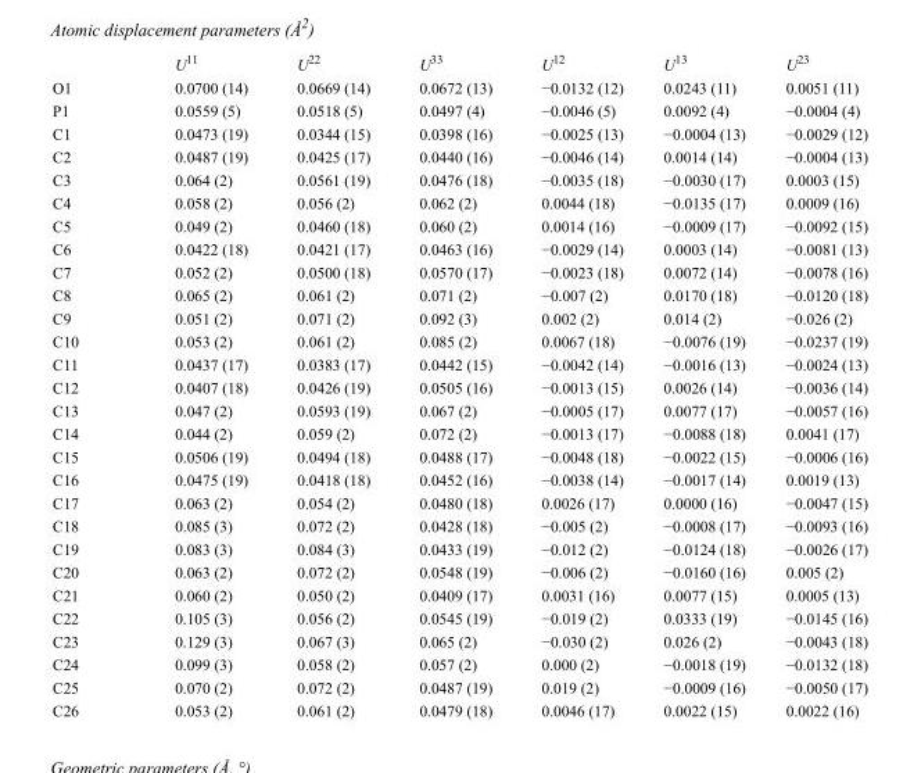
<table><thead><tr><td></td><td>U<sup>11</sup></td><td>U<sup>22</sup></td><td>U<sup>33</sup></td><td>U<sup>12</sup></td><td>U<sup>13</sup></td><td>U<sup>23</sup></td></tr></thead><tbody><tr><td>O1</td><td>0.0700 (14)</td><td>0.0669 (14)</td><td>0.0672 (13)</td><td>−0.0132 (12)</td><td>0.0243 (11)</td><td>0.0051 (11)</td></tr><tr><td>P1</td><td>0.0559 (5)</td><td>0.0518 (5)</td><td>0.0497 (4)</td><td>−0.0046 (5)</td><td>0.0092 (4)</td><td>−0.0004 (4)</td></tr><tr><td>C1</td><td>0.0473 (19)</td><td>0.0344 (15)</td><td>0.0398 (16)</td><td>−0.0025 (13)</td><td>−0.0004 (13)</td><td>−0.0029 (12)</td></tr><tr><td>C2</td><td>0.0487 (19)</td><td>0.0425 (17)</td><td>0.0440 (16)</td><td>−0.0046 (14)</td><td>0.0014 (14)</td><td>−0.0004 (13)</td></tr><tr><td>C3</td><td>0.064 (2)</td><td>0.0561 (19)</td><td>0.0476 (18)</td><td>−0.0035 (18)</td><td>−0.0030 (17)</td><td>0.0003 (15)</td></tr><tr><td>C4</td><td>0.058 (2)</td><td>0.056 (2)</td><td>0.062 (2)</td><td>0.0044 (18)</td><td>−0.0135 (17)</td><td>0.0009 (16)</td></tr><tr><td>C5</td><td>0.049 (2)</td><td>0.0460 (18)</td><td>0.060 (2)</td><td>0.0014 (16)</td><td>−0.0009 (17)</td><td>−0.0092 (15)</td></tr><tr><td>C6</td><td>0.0422 (18)</td><td>0.0421 (17)</td><td>0.0463 (16)</td><td>−0.0029 (14)</td><td>0.0003 (14)</td><td>−0.0081 (13)</td></tr><tr><td>C7</td><td>0.052 (2)</td><td>0.0500 (18)</td><td>0.0570 (17)</td><td>−0.0023 (18)</td><td>0.0072 (14)</td><td>−0.0078 (16)</td></tr><tr><td>C8</td><td>0.065 (2)</td><td>0.061 (2)</td><td>0.071 (2)</td><td>−0.007 (2)</td><td>0.0170 (18)</td><td>−0.0120 (18)</td></tr><tr><td>C9</td><td>0.051 (2)</td><td>0.071 (2)</td><td>0.092 (3)</td><td>0.002 (2)</td><td>0.014 (2)</td><td>−0.026 (2)</td></tr><tr><td>C10</td><td>0.053 (2)</td><td>0.061 (2)</td><td>0.085 (2)</td><td>0.0067 (18)</td><td>−0.0076 (19)</td><td>−0.0237 (19)</td></tr><tr><td>C11</td><td>0.0437 (17)</td><td>0.0383 (17)</td><td>0.0442 (15)</td><td>−0.0042 (14)</td><td>−0.0016 (13)</td><td>−0.0024 (13)</td></tr><tr><td>C12</td><td>0.0407 (18)</td><td>0.0426 (19)</td><td>0.0505 (16)</td><td>−0.0013 (15)</td><td>0.0026 (14)</td><td>−0.0036 (14)</td></tr><tr><td>C13</td><td>0.047 (2)</td><td>0.0593 (19)</td><td>0.067 (2)</td><td>−0.0005 (17)</td><td>0.0077 (17)</td><td>−0.0057 (16)</td></tr><tr><td>C14</td><td>0.044 (2)</td><td>0.059 (2)</td><td>0.072 (2)</td><td>−0.0013 (17)</td><td>−0.0088 (18)</td><td>0.0041 (17)</td></tr><tr><td>C15</td><td>0.0506 (19)</td><td>0.0494 (18)</td><td>0.0488 (17)</td><td>−0.0048 (18)</td><td>−0.0022 (15)</td><td>−0.0006 (16)</td></tr><tr><td>C16</td><td>0.0475 (19)</td><td>0.0418 (18)</td><td>0.0452 (16)</td><td>−0.0038 (14)</td><td>−0.0017 (14)</td><td>0.0019 (13)</td></tr><tr><td>C17</td><td>0.063 (2)</td><td>0.054 (2)</td><td>0.0480 (18)</td><td>0.0026 (17)</td><td>0.0000 (16)</td><td>−0.0047 (15)</td></tr><tr><td>C18</td><td>0.085 (3)</td><td>0.072 (2)</td><td>0.0428 (18)</td><td>−0.005 (2)</td><td>−0.0008 (17)</td><td>−0.0093 (16)</td></tr><tr><td>C19</td><td>0.083 (3)</td><td>0.084 (3)</td><td>0.0433 (19)</td><td>−0.012 (2)</td><td>−0.0124 (18)</td><td>−0.0026 (17)</td></tr><tr><td>C20</td><td>0.063 (2)</td><td>0.072 (2)</td><td>0.0548 (19)</td><td>−0.006 (2)</td><td>−0.0160 (16)</td><td>0.005 (2)</td></tr><tr><td>C21</td><td>0.060 (2)</td><td>0.050 (2)</td><td>0.0409 (17)</td><td>0.0031 (16)</td><td>0.0077 (15)</td><td>0.0005 (13)</td></tr><tr><td>C22</td><td>0.105 (3)</td><td>0.056 (2)</td><td>0.0545 (19)</td><td>−0.019 (2)</td><td>0.0333 (19)</td><td>−0.0145 (16)</td></tr><tr><td>C23</td><td>0.129 (3)</td><td>0.067 (3)</td><td>0.065 (2)</td><td>−0.030 (2)</td><td>0.026 (2)</td><td>−0.0043 (18)</td></tr><tr><td>C24</td><td>0.099 (3)</td><td>0.058 (2)</td><td>0.057 (2)</td><td>0.000 (2)</td><td>−0.0018 (19)</td><td>−0.0132 (18)</td></tr><tr><td>C25</td><td>0.070 (2)</td><td>0.072 (2)</td><td>0.0487 (19)</td><td>0.019 (2)</td><td>−0.0009 (16)</td><td>−0.0050 (17)</td></tr><tr><td>C26</td><td>0.053 (2)</td><td>0.061 (2)</td><td>0.0479 (18)</td><td>0.0046 (17)</td><td>0.0022 (15)</td><td>0.0022 (16)</td></tr></tbody></table>